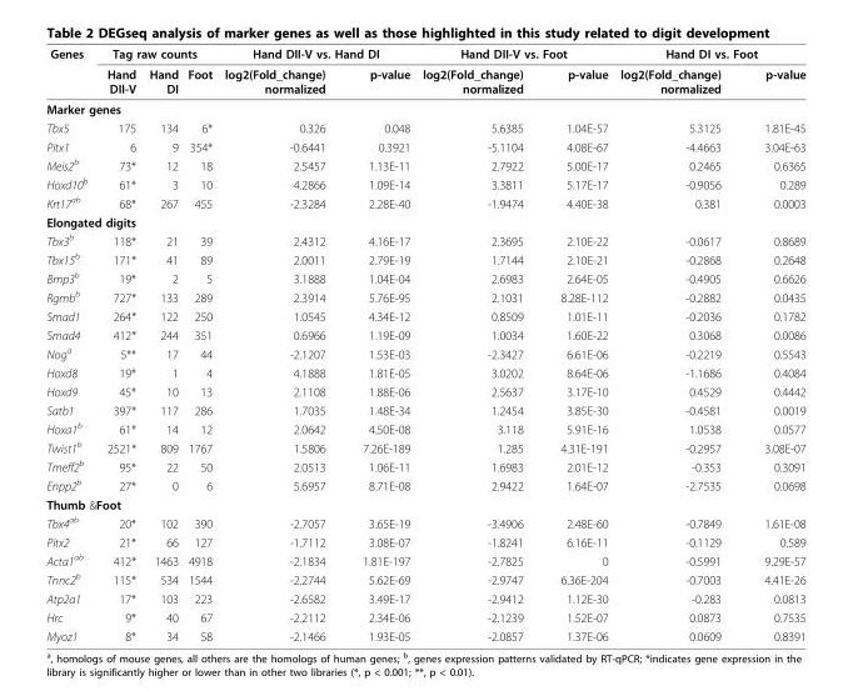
<table><thead><tr><td rowspan="2">Genes</td><td colspan="3">Tag raw counts</td><td colspan="2">Hand DII-V vs. Hand DI</td><td colspan="2">Hand DII-V vs. Foot</td><td colspan="2">Hand DI vs. Foot</td></tr><tr><td>Hand DII-V</td><td>Hand DI</td><td>Foot</td><td>log2(Fold_change) normalized</td><td>p-value</td><td>log2(Fold_change) normalized</td><td>p-value</td><td>log2(Fold_change) normalized</td><td>p-value</td></tr></thead><tbody><tr><td colspan="10">Marker genes</td></tr><tr><td>Tbx5</td><td>175</td><td>134</td><td>6*</td><td>0.326</td><td>0.048</td><td>5.6385</td><td>1.04E-57</td><td>5.3125</td><td>1.81E-45</td></tr><tr><td>Pitx1</td><td>6</td><td>9</td><td>354*</td><td>-0.6441</td><td>0.3921</td><td>-5.1104</td><td>4.08E-67</td><td>-4.4663</td><td>3.04E-63</td></tr><tr><td>Meis2<sup>b</sup></td><td>73*</td><td>12</td><td>18</td><td>2.5457</td><td>1.13E-11</td><td>2.7922</td><td>5.00E-17</td><td>0.2465</td><td>0.6365</td></tr><tr><td>Hoxd10<sup>b</sup></td><td>61*</td><td>3</td><td>10</td><td>4.2866</td><td>1.09E-14</td><td>3.3811</td><td>5.17E-17</td><td>-0.9056</td><td>0.289</td></tr><tr><td>Krt17<sup>ab</sup></td><td>68*</td><td>267</td><td>455</td><td>-2.3284</td><td>2.28E-40</td><td>-1.9474</td><td>4.40E-38</td><td>0.381</td><td>0.0003</td></tr><tr><td colspan="10">Elongated digits</td></tr><tr><td>Tbx3<sup>b</sup></td><td>118*</td><td>21</td><td>39</td><td>2.4312</td><td>4.16E-17</td><td>2.3695</td><td>2.10E-22</td><td>-0.0617</td><td>0.8689</td></tr><tr><td>Tbx15<sup>b</sup></td><td>171*</td><td>41</td><td>89</td><td>2.0011</td><td>2.79E-19</td><td>1.7144</td><td>2.10E-21</td><td>-0.2868</td><td>0.2648</td></tr><tr><td>Bmp3<sup>b</sup></td><td>19*</td><td>2</td><td>5</td><td>3.1888</td><td>1.04E-04</td><td>2.6983</td><td>2.64E-05</td><td>-0.4905</td><td>0.6626</td></tr><tr><td>Rgmb<sup>b</sup></td><td>727*</td><td>133</td><td>289</td><td>2.3914</td><td>5.76E-95</td><td>2.1031</td><td>8.28E-112</td><td>-0.2882</td><td>0.0435</td></tr><tr><td>Smad1</td><td>264*</td><td>122</td><td>250</td><td>1.0545</td><td>4.34E-12</td><td>0.8509</td><td>1.01E-11</td><td>-0.2036</td><td>0.1782</td></tr><tr><td>Smad4</td><td>412*</td><td>244</td><td>351</td><td>0.6966</td><td>1.19E-09</td><td>1.0034</td><td>1.60E-22</td><td>0.3068</td><td>0.0086</td></tr><tr><td>Nog<sup>a</sup></td><td>5**</td><td>17</td><td>44</td><td>-2.1207</td><td>1.53E-03</td><td>-2.3427</td><td>6.61E-06</td><td>-0.2219</td><td>0.5543</td></tr><tr><td>Hoxd8</td><td>19*</td><td>1</td><td>4</td><td>4.1888</td><td>1.81E-05</td><td>3.0202</td><td>8.64E-06</td><td>-1.1686</td><td>0.4084</td></tr><tr><td>Hoxd9</td><td>45*</td><td>10</td><td>13</td><td>2.1108</td><td>1.88E-06</td><td>2.5637</td><td>3.17E-10</td><td>0.4529</td><td>0.4442</td></tr><tr><td>Satb1</td><td>397*</td><td>117</td><td>286</td><td>1.7035</td><td>1.48E-34</td><td>1.2454</td><td>3.85E-30</td><td>-0.4581</td><td>0.0019</td></tr><tr><td>Hoxa1<sup>b</sup></td><td>61*</td><td>14</td><td>12</td><td>2.0642</td><td>4.50E-08</td><td>3.118</td><td>5.91E-16</td><td>1.0538</td><td>0.0577</td></tr><tr><td>Twist1<sup>b</sup></td><td>2521*</td><td>809</td><td>1767</td><td>1.5806</td><td>7.26E-189</td><td>1.285</td><td>4.31E-191</td><td>-0.2957</td><td>3.08E-07</td></tr><tr><td>Tmeff2<sup>b</sup></td><td>95*</td><td>22</td><td>50</td><td>2.0513</td><td>1.06E-11</td><td>1.6983</td><td>2.01E-12</td><td>-0.353</td><td>0.3091</td></tr><tr><td>Enpp2<sup>b</sup></td><td>27*</td><td>0</td><td>6</td><td>5.6957</td><td>8.71E-08</td><td>2.9422</td><td>1.64E-07</td><td>-2.7535</td><td>0.0698</td></tr><tr><td colspan="10">Thumb &amp;Foot</td></tr><tr><td>Tbx4<sup>ab</sup></td><td>20*</td><td>102</td><td>390</td><td>-2.7057</td><td>3.65E-19</td><td>-3.4906</td><td>2.48E-60</td><td>-0.7849</td><td>1.61E-08</td></tr><tr><td>Pitx2</td><td>21*</td><td>66</td><td>127</td><td>-1.7112</td><td>3.08E-07</td><td>-1.8241</td><td>6.16E-11</td><td>-0.1129</td><td>0.589</td></tr><tr><td>Acta1<sup>ab</sup></td><td>412*</td><td>1463</td><td>4918</td><td>-2.1834</td><td>1.81E-197</td><td>-2.7825</td><td>0</td><td>-0.5991</td><td>9.29E-57</td></tr><tr><td>Tnnc2<sup>b</sup></td><td>115*</td><td>534</td><td>1544</td><td>-2.2744</td><td>5.62E-69</td><td>-2.9747</td><td>6.36E-204</td><td>-0.7003</td><td>4.41E-26</td></tr><tr><td>Atp2a1</td><td>17*</td><td>103</td><td>223</td><td>-2.6582</td><td>3.49E-17</td><td>-2.9412</td><td>1.12E-30</td><td>-0.283</td><td>0.0813</td></tr><tr><td>Hrc</td><td>9*</td><td>40</td><td>67</td><td>-2.2112</td><td>2.34E-06</td><td>-2.1239</td><td>1.52E-07</td><td>0.0873</td><td>0.7535</td></tr><tr><td>Myoz1</td><td>8*</td><td>34</td><td>58</td><td>-2.1466</td><td>1.93E-05</td><td>-2.0857</td><td>1.37E-06</td><td>0.0609</td><td>0.8391</td></tr></tbody></table>